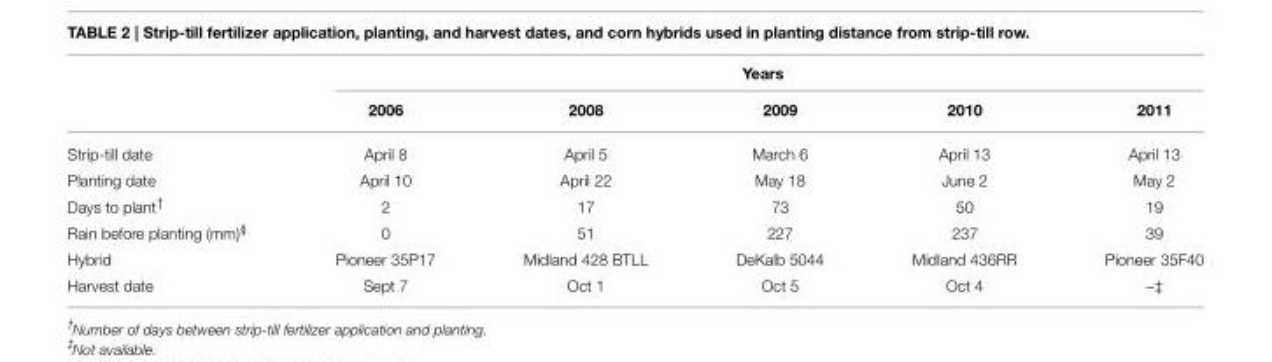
<table><thead><tr><td rowspan="2"></td><td colspan="5">Years</td></tr><tr><td>2006</td><td>2008</td><td>2009</td><td>2010</td><td>2011</td></tr></thead><tbody><tr><td>Strip-till date</td><td>April 8</td><td>April 5</td><td>March 6</td><td>April 13</td><td>April 13</td></tr><tr><td>Planting date</td><td>April 10</td><td>April 22</td><td>May 18</td><td>June 2</td><td>May 2</td></tr><tr><td>Days to plant<sup>†</sup></td><td>2</td><td>17</td><td>73</td><td>50</td><td>19</td></tr><tr><td>Rain before planting (mm)<sup>§</sup></td><td>0</td><td>51</td><td>227</td><td>237</td><td>39</td></tr><tr><td>Hybrid</td><td>Pioneer 35P17</td><td>Midland 428 BTLL</td><td>DeKalb 5044</td><td>Midland 436RR</td><td>Pioneer 35F40</td></tr><tr><td>Harvest date</td><td>Sept 7</td><td>Oct 1</td><td>Oct 5</td><td>Oct 4</td><td>–<sup>‡</sup></td></tr></tbody></table>